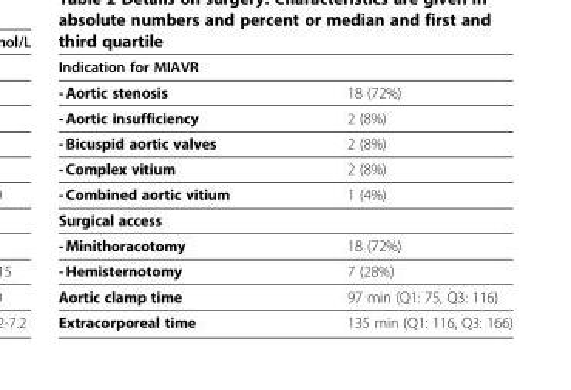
<table><thead><tr><td>Indication for MIAVR</td><td></td></tr></thead><tbody><tr><td>- Aortic stenosis</td><td>18 (72%)</td></tr><tr><td>- Aortic insufficiency</td><td>2 (8%)</td></tr><tr><td>- Bicuspid aortic valves</td><td>2 (8%)</td></tr><tr><td>- Complex vitium</td><td>2 (8%)</td></tr><tr><td>- Combined aortic vitium</td><td>1 (4%)</td></tr><tr><td colspan="2">Surgical access</td></tr><tr><td>- Minithoracotomy</td><td>18 (72%)</td></tr><tr><td>- Hemisternotomy</td><td>7 (28%)</td></tr><tr><td>Aortic clamp time</td><td>97 min (Q1: 75, Q3: 116)</td></tr><tr><td>Extracorporeal time</td><td>135 min (Q1: 116, Q3: 166)</td></tr></tbody></table>